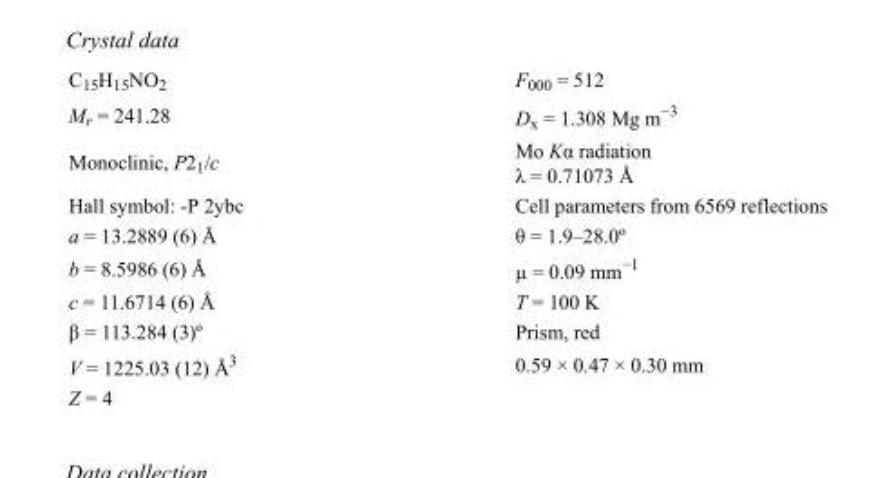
<table><tbody><tr><td>C<sub>15</sub>H<sub>15</sub>NO<sub>2</sub></td><td>F000 = 512</td></tr><tr><td>M<sub>r</sub> = 241.28</td><td>D<sub>x</sub> = 1.308 Mg m<sup>−3</sup></td></tr><tr><td>Monoclinic, P2<sub>1</sub>/c</td><td>Mo Kα radiation λ = 0.71073 Å</td></tr><tr><td>Hall symbol: -P 2ybc</td><td>Cell parameters from 6569 reflections</td></tr><tr><td>a = 13.2889 (6) Å</td><td>θ = 1.9–28.0º</td></tr><tr><td>b = 8.5986 (6) Å</td><td>µ = 0.09 mm<sup>−1</sup></td></tr><tr><td>c = 11.6714 (6) Å</td><td>T = 100 K</td></tr><tr><td>β = 113.284 (3)º</td><td>Prism, red</td></tr><tr><td>V = 1225.03 (12) Å<sup>3</sup></td><td>0.59 × 0.47 × 0.30 mm</td></tr><tr><td>Z = 4</td><td></td></tr></tbody></table>